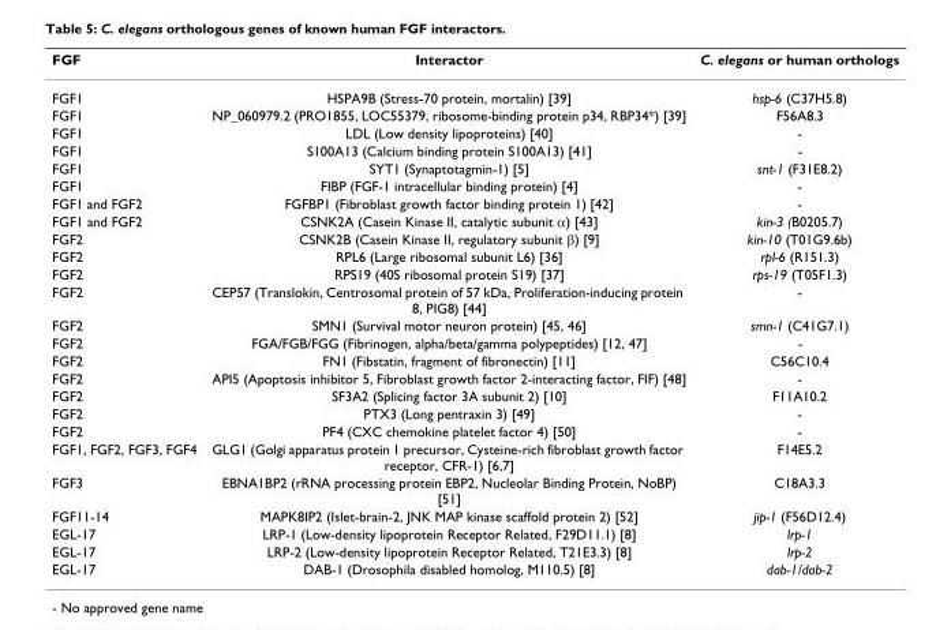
<table><thead><tr><td>FGF</td><td>Interactor</td><td>C. elegans or human orthologs</td></tr></thead><tbody><tr><td>FGF1</td><td>HSPA9B (Stress-70 protein, mortalin) [39]</td><td>hsp-6 (C37H5.8)</td></tr><tr><td>FGF1</td><td>NP_060979.2 (PRO1855, LOC55379, ribosome-binding protein p34, RBP34*) [39]</td><td>F56A8.3</td></tr><tr><td>FGF1</td><td>LDL (Low density lipoproteins) [40]</td><td>-</td></tr><tr><td>FGF1</td><td>S100A13 (Calcium binding protein S100A13) [41]</td><td>-</td></tr><tr><td>FGF1</td><td>SYT1 (Synaptotagmin-1) [5]</td><td>snt-1 (F31E8.2)</td></tr><tr><td>FGF1</td><td>FIBP (FGF-1 intracellular binding protein) [4]</td><td>-</td></tr><tr><td>FGF1 and FGF2</td><td>FGFBP1 (Fibroblast growth factor binding protein 1) [42]</td><td>-</td></tr><tr><td>FGF1 and FGF2</td><td>CSNK2A (Casein Kinase II, catalytic subunit α) [43]</td><td>kin-3 (B0205.7)</td></tr><tr><td>FGF2</td><td>CSNK2B (Casein Kinase II, regulatory subunit β) [9]</td><td>kin-10 (T01G9.6b)</td></tr><tr><td>FGF2</td><td>RPL6 (Large ribosomal subunit L6) [36]</td><td>rpl-6 (R151.3)</td></tr><tr><td>FGF2</td><td>RPS19 (40S ribosomal protein S19) [37]</td><td>rps-19 (T05F1.3)</td></tr><tr><td>FGF2</td><td>CEP57 (Translokin, Centrosomal protein of 57 kDa, Proliferation-inducing protein 8, PIG8) [44]</td><td>-</td></tr><tr><td>FGF2</td><td>SMN1 (Survival motor neuron protein) [45, 46]</td><td>smn-1 (C41G7.1)</td></tr><tr><td>FGF2</td><td>FGA/FGB/FGG (Fibrinogen, alpha/beta/gamma polypeptides) [12, 47]</td><td>-</td></tr><tr><td>FGF2</td><td>FN1 (Fibstatin, fragment of fibronectin) [11]</td><td>C56C10.4</td></tr><tr><td>FGF2</td><td>API5 (Apoptosis inhibitor 5, Fibroblast growth factor 2-interacting factor, FIF) [48]</td><td>-</td></tr><tr><td>FGF2</td><td>SF3A2 (Splicing factor 3A subunit 2) [10]</td><td>F11A10.2</td></tr><tr><td>FGF2</td><td>PTX3 (Long pentraxin 3) [49]</td><td>-</td></tr><tr><td>FGF2</td><td>PF4 (CXC chemokine platelet factor 4) [50]</td><td>-</td></tr><tr><td>FGF1, FGF2, FGF3, FGF4</td><td>GLG1 (Golgi apparatus protein 1 precursor, Cysteine-rich fibroblast growth factor receptor, CFR-1) [6,7]</td><td>F14E5.2</td></tr><tr><td>FGF3</td><td>EBNA1BP2 (rRNA processing protein EBP2, Nucleolar Binding Protein, NoBP) [51]</td><td>C18A3.3</td></tr><tr><td>FGF11-14</td><td>MAPK8IP2 (Islet-brain-2, JNK MAP kinase scaffold protein 2) [52]</td><td>jip-1 (F56D12.4)</td></tr><tr><td>EGL-17</td><td>LRP-1 (Low-density lipoprotein Receptor Related, F29D11.1) [8]</td><td>lrp-1</td></tr><tr><td>EGL-17</td><td>LRP-2 (Low-density lipoprotein Receptor Related, T21E3.3) [8]</td><td>lrp-2</td></tr><tr><td>EGL-17</td><td>DAB-1 (Drosophila disabled homolog, M110.5) [8]</td><td>dab-1/dab-2</td></tr></tbody></table>